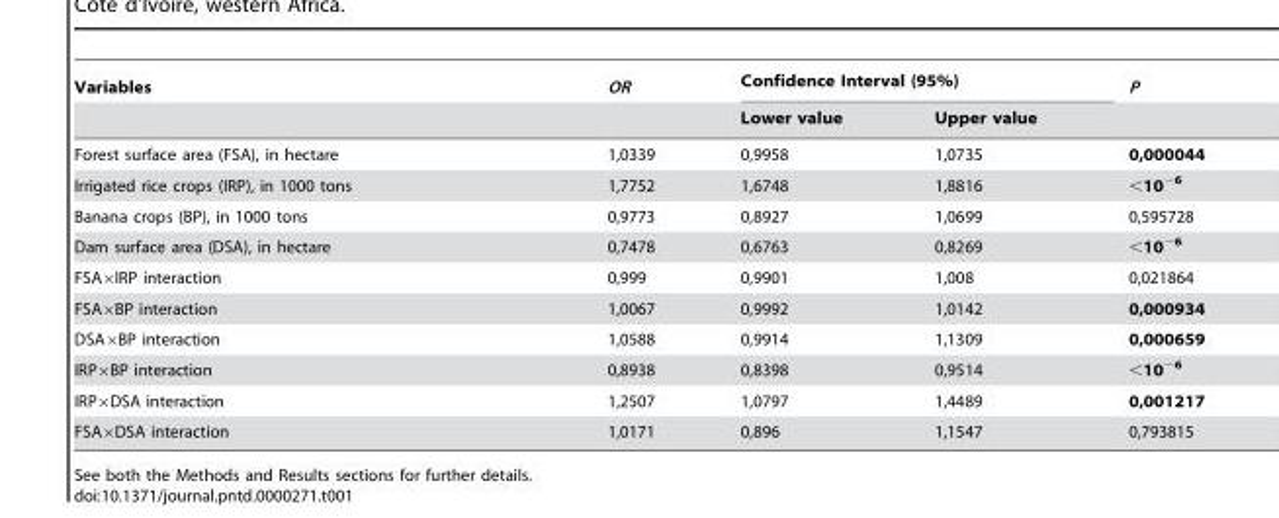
<table><thead><tr><td rowspan="2">Variables</td><td rowspan="2">OR</td><td colspan="2">Confidence Interval (95%)</td><td rowspan="2">P</td></tr><tr><td>Lower value</td><td>Upper value</td></tr></thead><tbody><tr><td>Forest surface area (FSA), in hectare</td><td>1,0339</td><td>0,9958</td><td>1,0735</td><td>0,000044</td></tr><tr><td>Irrigated rice crops (IRP), in 1000 tons</td><td>1,7752</td><td>1,6748</td><td>1,8816</td><td>&lt;10<sup>−6</sup></td></tr><tr><td>Banana crops (BP), in 1000 tons</td><td>0,9773</td><td>0,8927</td><td>1,0699</td><td>0,595728</td></tr><tr><td>Dam surface area (DSA), in hectare</td><td>0,7478</td><td>0,6763</td><td>0,8269</td><td>&lt;10<sup>−6</sup></td></tr><tr><td>FSA×IRP interaction</td><td>0,999</td><td>0,9901</td><td>1,008</td><td>0,021864</td></tr><tr><td>FSA×BP interaction</td><td>1,0067</td><td>0,9992</td><td>1,0142</td><td>0,000934</td></tr><tr><td>DSA×BP interaction</td><td>1,0588</td><td>0,9914</td><td>1,1309</td><td>0,000659</td></tr><tr><td>IRP×BP interaction</td><td>0,8938</td><td>0,8398</td><td>0,9514</td><td>&lt;10<sup>−6</sup></td></tr><tr><td>IRP×DSA interaction</td><td>1,2507</td><td>1,0797</td><td>1,4489</td><td>0,001217</td></tr><tr><td>FSA×DSA interaction</td><td>1,0171</td><td>0,896</td><td>1,1547</td><td>0,793815</td></tr></tbody></table>